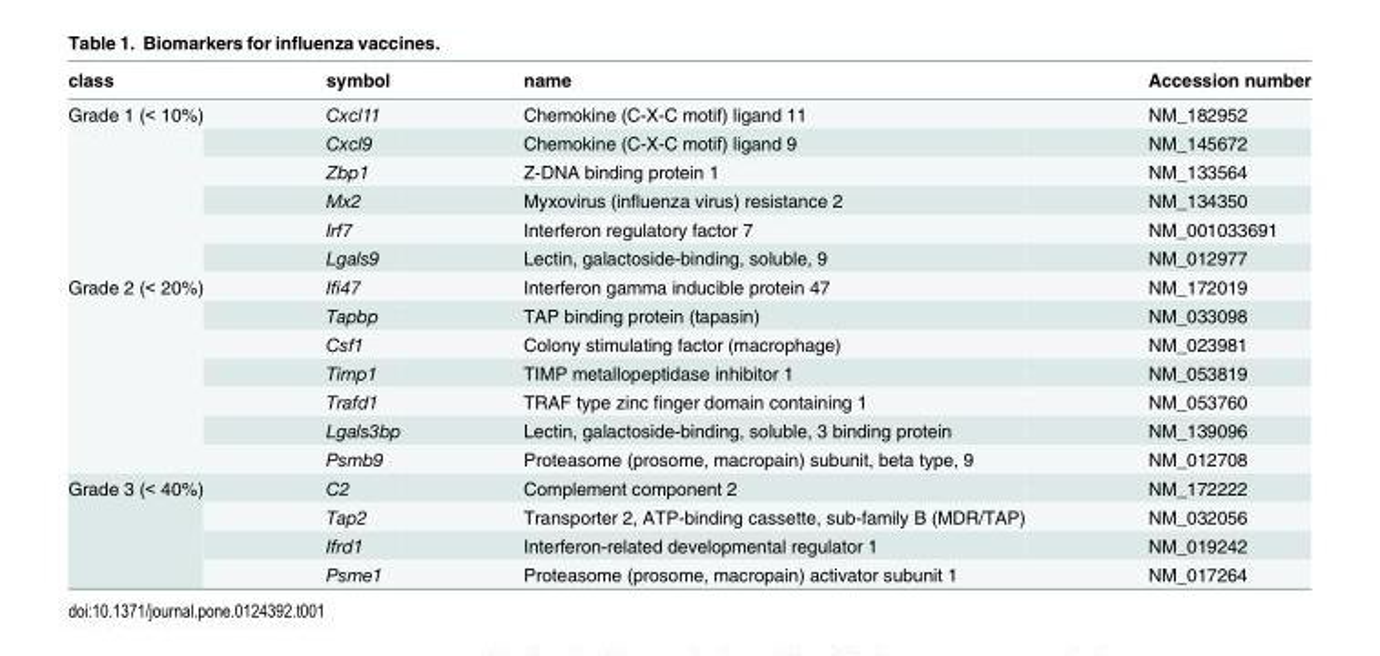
<table><thead><tr><td>class</td><td>symbol</td><td>name</td><td>Accession number</td></tr></thead><tbody><tr><td rowspan="6">Grade 1 (&lt; 10%)</td><td>Cxcl11</td><td>Chemokine (C-X-C motif) ligand 11</td><td>NM_182952</td></tr><tr><td>Cxcl9</td><td>Chemokine (C-X-C motif) ligand 9</td><td>NM_145672</td></tr><tr><td>Zbp1</td><td>Z-DNA binding protein 1</td><td>NM_133564</td></tr><tr><td>Mx2</td><td>Myxovirus (influenza virus) resistance 2</td><td>NM_134350</td></tr><tr><td>Irf7</td><td>Interferon regulatory factor 7</td><td>NM_001033691</td></tr><tr><td>Lgals9</td><td>Lectin, galactoside-binding, soluble, 9</td><td>NM_012977</td></tr><tr><td rowspan="7">Grade 2 (&lt; 20%)</td><td>Ifi47</td><td>Interferon gamma inducible protein 47</td><td>NM_172019</td></tr><tr><td>Tapbp</td><td>TAP binding protein (tapasin)</td><td>NM_033098</td></tr><tr><td>Csf1</td><td>Colony stimulating factor (macrophage)</td><td>NM_023981</td></tr><tr><td>Timp1</td><td>TIMP metallopeptidase inhibitor 1</td><td>NM_053819</td></tr><tr><td>Trafd1</td><td>TRAF type zinc finger domain containing 1</td><td>NM_053760</td></tr><tr><td>Lgals3bp</td><td>Lectin, galactoside-binding, soluble, 3 binding protein</td><td>NM_139096</td></tr><tr><td>Psmb9</td><td>Proteasome (prosome, macropain) subunit, beta type, 9</td><td>NM_012708</td></tr><tr><td rowspan="4">Grade 3 (&lt; 40%)</td><td>C2</td><td>Complement component 2</td><td>NM_172222</td></tr><tr><td>Tap2</td><td>Transporter 2, ATP-binding cassette, sub-family B (MDR/TAP)</td><td>NM_032056</td></tr><tr><td>Ifrd1</td><td>Interferon-related developmental regulator 1</td><td>NM_019242</td></tr><tr><td>Psme1</td><td>Proteasome (prosome, macropain) activator subunit 1</td><td>NM_017264</td></tr></tbody></table>